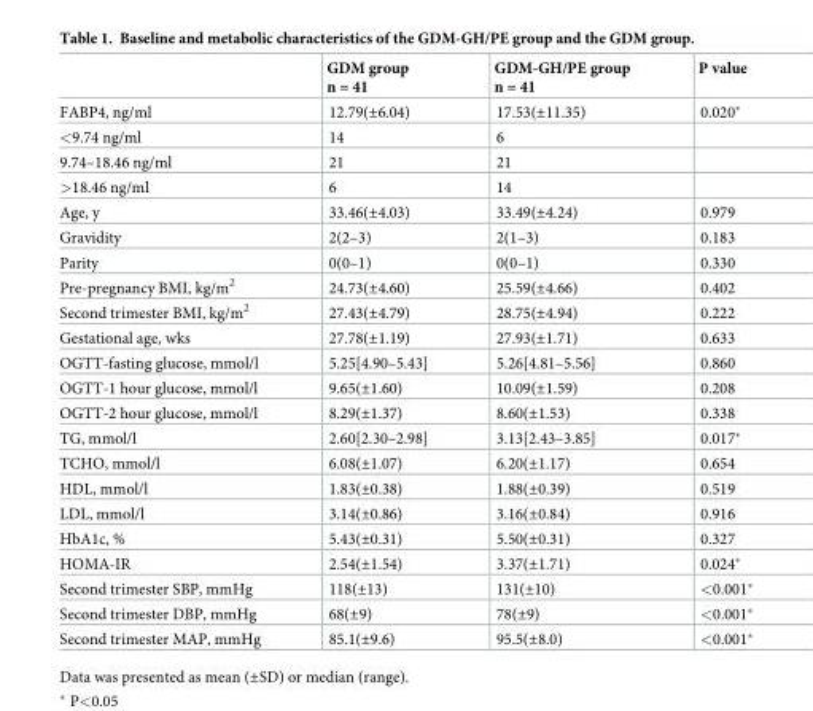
<table><thead><tr><td></td><td>GDM group n = 41</td><td>GDM-GH/PE group n = 41</td><td>P value</td></tr></thead><tbody><tr><td>FABP4, ng/ml</td><td>12.79(±6.04)</td><td>17.53(±11.35)</td><td>0.020*</td></tr><tr><td>&lt;9.74 ng/ml</td><td>14</td><td>6</td><td></td></tr><tr><td>9.74–18.46 ng/ml</td><td>21</td><td>21</td><td></td></tr><tr><td>&gt;18.46 ng/ml</td><td>6</td><td>14</td><td></td></tr><tr><td>Age, y</td><td>33.46(±4.03)</td><td>33.49(±4.24)</td><td>0.979</td></tr><tr><td>Gravidity</td><td>2(2–3)</td><td>2(1–3)</td><td>0.183</td></tr><tr><td>Parity</td><td>0(0–1)</td><td>0(0–1)</td><td>0.330</td></tr><tr><td>Pre-pregnancy BMI, kg/m<sup>2</sup></td><td>24.73(±4.60)</td><td>25.59(±4.66)</td><td>0.402</td></tr><tr><td>Second trimester BMI, kg/m<sup>2</sup></td><td>27.43(±4.79)</td><td>28.75(±4.94)</td><td>0.222</td></tr><tr><td>Gestational age, wks</td><td>27.78(±1.19)</td><td>27.93(±1.71)</td><td>0.633</td></tr><tr><td>OGTT-fasting glucose, mmol/l</td><td>5.25[4.90–5.43]</td><td>5.26[4.81–5.56]</td><td>0.860</td></tr><tr><td>OGTT-1 hour glucose, mmol/l</td><td>9.65(±1.60)</td><td>10.09(±1.59)</td><td>0.208</td></tr><tr><td>OGTT-2 hour glucose, mmol/l</td><td>8.29(±1.37)</td><td>8.60(±1.53)</td><td>0.338</td></tr><tr><td>TG, mmol/l</td><td>2.60[2.30–2.98]</td><td>3.13[2.43–3.85]</td><td>0.017*</td></tr><tr><td>TCHO, mmol/l</td><td>6.08(±1.07)</td><td>6.20(±1.17)</td><td>0.654</td></tr><tr><td>HDL, mmol/l</td><td>1.83(±0.38)</td><td>1.88(±0.39)</td><td>0.519</td></tr><tr><td>LDL, mmol/l</td><td>3.14(±0.86)</td><td>3.16(±0.84)</td><td>0.916</td></tr><tr><td>HbA1c, %</td><td>5.43(±0.31)</td><td>5.50(±0.31)</td><td>0.327</td></tr><tr><td>HOMA-IR</td><td>2.54(±1.54)</td><td>3.37(±1.71)</td><td>0.024*</td></tr><tr><td>Second trimester SBP, mmHg</td><td>118(±13)</td><td>131(±10)</td><td>&lt;0.001*</td></tr><tr><td>Second trimester DBP, mmHg</td><td>68(±9)</td><td>78(±9)</td><td>&lt;0.001*</td></tr><tr><td>Second trimester MAP, mmHg</td><td>85.1(±9.6)</td><td>95.5(±8.0)</td><td>&lt;0.001*</td></tr></tbody></table>